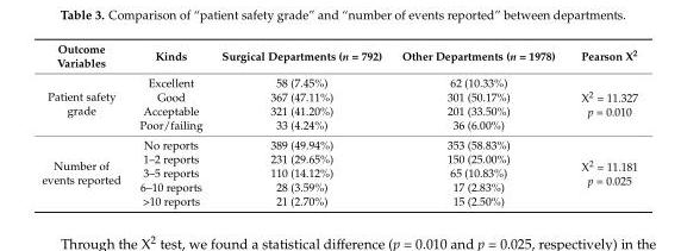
<table><thead><tr><td>Outcome Variables</td><td>Kinds</td><td>Surgical Departments (n = 792)</td><td>Other Departments (n = 1978)</td><td>Pearson X<sup>2</sup></td></tr></thead><tbody><tr><td rowspan="4">Patient safety grade</td><td>Excellent</td><td>58 (7.45%)</td><td>62 (10.33%)</td><td rowspan="4">X<sup>2</sup> = 11.327 p = 0.010</td></tr><tr><td>Good</td><td>367 (47.11%)</td><td>301 (50.17%)</td></tr><tr><td>Acceptable</td><td>321 (41.20%)</td><td>201 (33.50%)</td></tr><tr><td>Poor/failing</td><td>33 (4.24%)</td><td>36 (6.00%)</td></tr><tr><td rowspan="5">Number of events reported</td><td>No reports</td><td>389 (49.94%)</td><td>353 (58.83%)</td><td rowspan="5">X<sup>2</sup> = 11.181 p = 0.025</td></tr><tr><td>1–2 reports</td><td>231 (29.65%)</td><td>150 (25.00%)</td></tr><tr><td>3–5 reports</td><td>110 (14.12%)</td><td>65 (10.83%)</td></tr><tr><td>6–10 reports</td><td>28 (3.59%)</td><td>17 (2.83%)</td></tr><tr><td>&gt;10 reports</td><td>21 (2.70%)</td><td>15 (2.50%)</td></tr></tbody></table>